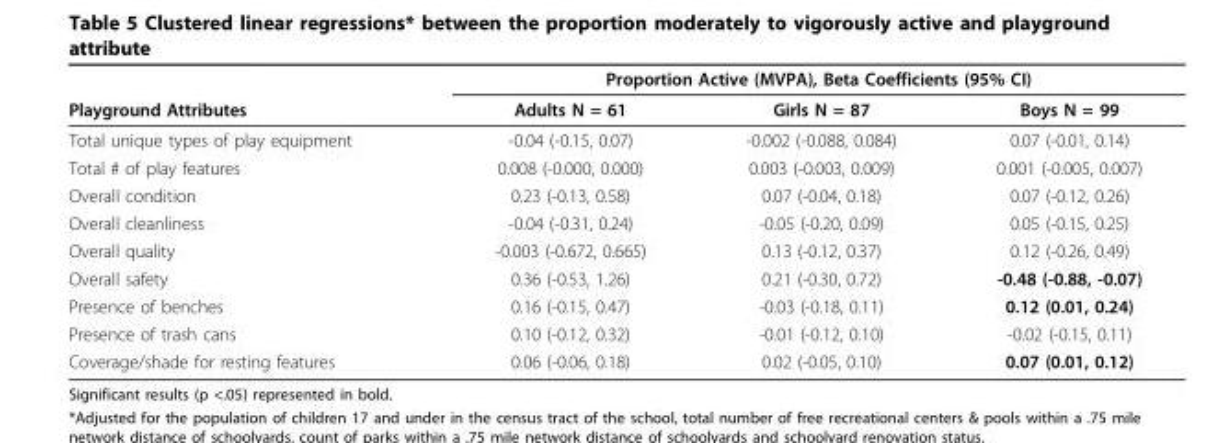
<table><thead><tr><td rowspan="2">Playground Attributes</td><td colspan="3">Proportion Active (MVPA), Beta Coefficients (95% CI)</td></tr><tr><td>Adults N = 61</td><td>Girls N = 87</td><td>Boys N = 99</td></tr></thead><tbody><tr><td>Total unique types of play equipment</td><td>-0.04 (-0.15, 0.07)</td><td>-0.002 (-0.088, 0.084)</td><td>0.07 (-0.01, 0.14)</td></tr><tr><td>Total # of play features</td><td>0.008 (-0.000, 0.000)</td><td>0.003 (-0.003, 0.009)</td><td>0.001 (-0.005, 0.007)</td></tr><tr><td>Overall condition</td><td>0.23 (-0.13, 0.58)</td><td>0.07 (-0.04, 0.18)</td><td>0.07 (-0.12, 0.26)</td></tr><tr><td>Overall cleanliness</td><td>-0.04 (-0.31, 0.24)</td><td>-0.05 (-0.20, 0.09)</td><td>0.05 (-0.15, 0.25)</td></tr><tr><td>Overall quality</td><td>-0.003 (-0.672, 0.665)</td><td>0.13 (-0.12, 0.37)</td><td>0.12 (-0.26, 0.49)</td></tr><tr><td>Overall safety</td><td>0.36 (-0.53, 1.26)</td><td>0.21 (-0.30, 0.72)</td><td>-0.48 (-0.88, -0.07)</td></tr><tr><td>Presence of benches</td><td>0.16 (-0.15, 0.47)</td><td>-0.03 (-0.18, 0.11)</td><td>0.12 (0.01, 0.24)</td></tr><tr><td>Presence of trash cans</td><td>0.10 (-0.12, 0.32)</td><td>-0.01 (-0.12, 0.10)</td><td>-0.02 (-0.15, 0.11)</td></tr><tr><td>Coverage/shade for resting features</td><td>0.06 (-0.06, 0.18)</td><td>0.02 (-0.05, 0.10)</td><td>0.07 (0.01, 0.12)</td></tr></tbody></table>